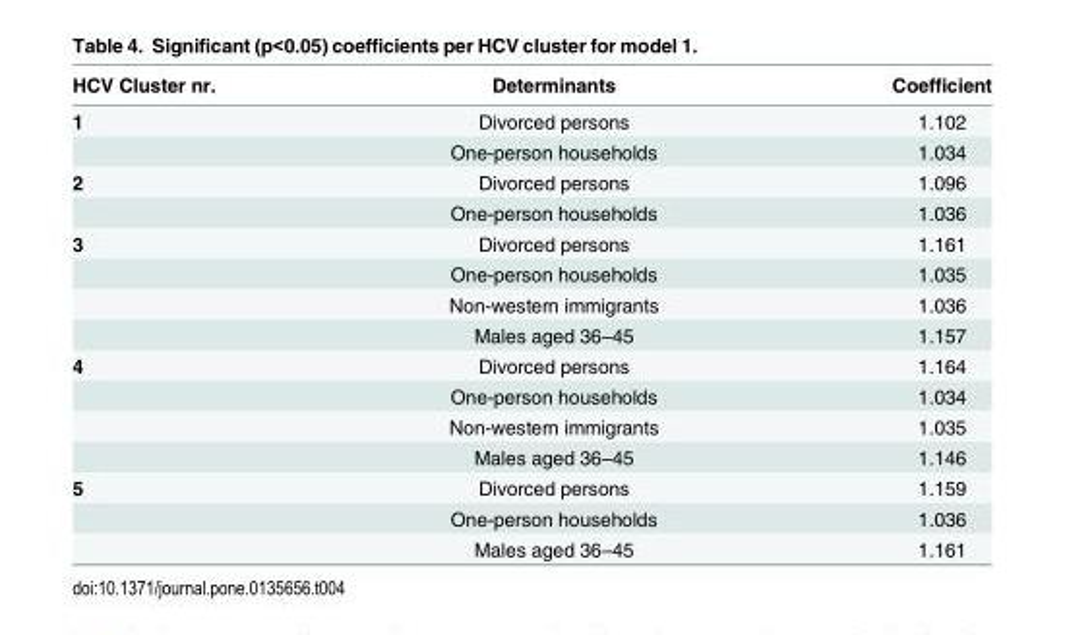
<table><thead><tr><td>HCV Cluster nr.</td><td>Determinants</td><td>Coefficient</td></tr></thead><tbody><tr><td rowspan="2">1</td><td>Divorced persons</td><td>1.102</td></tr><tr><td>One-person households</td><td>1.034</td></tr><tr><td rowspan="2">2</td><td>Divorced persons</td><td>1.096</td></tr><tr><td>One-person households</td><td>1.036</td></tr><tr><td rowspan="4">3</td><td>Divorced persons</td><td>1.161</td></tr><tr><td>One-person households</td><td>1.035</td></tr><tr><td>Non-western immigrants</td><td>1.036</td></tr><tr><td>Males aged 36–45</td><td>1.157</td></tr><tr><td rowspan="4">4</td><td>Divorced persons</td><td>1.164</td></tr><tr><td>One-person households</td><td>1.034</td></tr><tr><td>Non-western immigrants</td><td>1.035</td></tr><tr><td>Males aged 36–45</td><td>1.146</td></tr><tr><td rowspan="3">5</td><td>Divorced persons</td><td>1.159</td></tr><tr><td>One-person households</td><td>1.036</td></tr><tr><td>Males aged 36–45</td><td>1.161</td></tr></tbody></table>